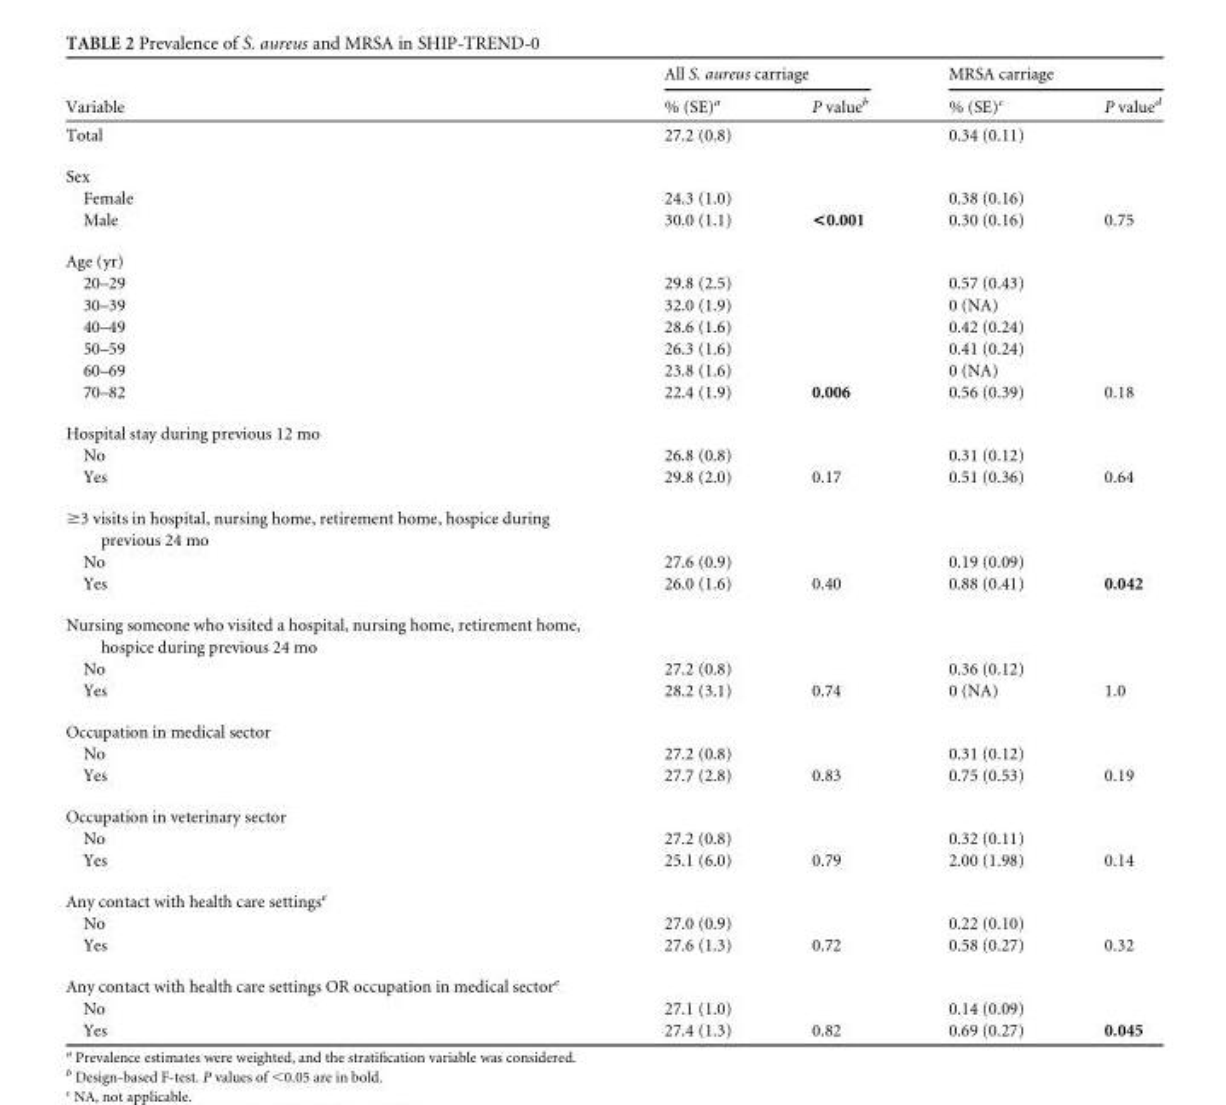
<table><thead><tr><td rowspan="2">Variable</td><td colspan="2">All S. aureus carriage</td><td colspan="2">MRSA carriage</td></tr><tr><td>% (SE)<sup>a</sup></td><td>P value<sup>b</sup></td><td>% (SE)<sup>c</sup></td><td>P value<sup>d</sup></td></tr></thead><tbody><tr><td>Total</td><td>27.2 (0.8)</td><td></td><td>0.34 (0.11)</td><td></td></tr><tr><td colspan="5">Sex</td></tr><tr><td>Female</td><td>24.3 (1.0)</td><td></td><td>0.38 (0.16)</td><td></td></tr><tr><td>Male</td><td>30.0 (1.1)</td><td>&lt;0.001</td><td>0.30 (0.16)</td><td>0.75</td></tr><tr><td colspan="5">Age (yr)</td></tr><tr><td>20–29</td><td>29.8 (2.5)</td><td></td><td>0.57 (0.43)</td><td></td></tr><tr><td>30–39</td><td>32.0 (1.9)</td><td></td><td>0 (NA)</td><td></td></tr><tr><td>40–49</td><td>28.6 (1.6)</td><td></td><td>0.42 (0.24)</td><td></td></tr><tr><td>50–59</td><td>26.3 (1.6)</td><td></td><td>0.41 (0.24)</td><td></td></tr><tr><td>60–69</td><td>23.8 (1.6)</td><td></td><td>0 (NA)</td><td></td></tr><tr><td>70–82</td><td>22.4 (1.9)</td><td>0.006</td><td>0.56 (0.39)</td><td>0.18</td></tr><tr><td colspan="5">Hospital stay during previous 12 mo</td></tr><tr><td>No</td><td>26.8 (0.8)</td><td></td><td>0.31 (0.12)</td><td></td></tr><tr><td>Yes</td><td>29.8 (2.0)</td><td>0.17</td><td>0.51 (0.36)</td><td>0.64</td></tr><tr><td colspan="5">≥3 visits in hospital, nursing home, retirement home, hospice during previous 24 mo</td></tr><tr><td>No</td><td>27.6 (0.9)</td><td></td><td>0.19 (0.09)</td><td></td></tr><tr><td>Yes</td><td>26.0 (1.6)</td><td>0.40</td><td>0.88 (0.41)</td><td>0.042</td></tr><tr><td colspan="5">Nursing someone who visited a hospital, nursing home, retirement home, hospice during previous 24 mo</td></tr><tr><td>No</td><td>27.2 (0.8)</td><td></td><td>0.36 (0.12)</td><td></td></tr><tr><td>Yes</td><td>28.2 (3.1)</td><td>0.74</td><td>0 (NA)</td><td>1.0</td></tr><tr><td colspan="5">Occupation in medical sector</td></tr><tr><td>No</td><td>27.2 (0.8)</td><td></td><td>0.31 (0.12)</td><td></td></tr><tr><td>Yes</td><td>27.7 (2.8)</td><td>0.83</td><td>0.75 (0.53)</td><td>0.19</td></tr><tr><td colspan="5">Occupation in veterinary sector</td></tr><tr><td>No</td><td>27.2 (0.8)</td><td></td><td>0.32 (0.11)</td><td></td></tr><tr><td>Yes</td><td>25.1 (6.0)</td><td>0.79</td><td>2.00 (1.98)</td><td>0.14</td></tr><tr><td colspan="5">Any contact with health care settings<sup>e</sup></td></tr><tr><td>No</td><td>27.0 (0.9)</td><td></td><td>0.22 (0.10)</td><td></td></tr><tr><td>Yes</td><td>27.6 (1.3)</td><td>0.72</td><td>0.58 (0.27)</td><td>0.32</td></tr><tr><td colspan="5">Any contact with health care settings OR occupation in medical sector<sup>e</sup></td></tr><tr><td>No</td><td>27.1 (1.0)</td><td></td><td>0.14 (0.09)</td><td></td></tr><tr><td>Yes</td><td>27.4 (1.3)</td><td>0.82</td><td>0.69 (0.27)</td><td>0.045</td></tr></tbody></table>